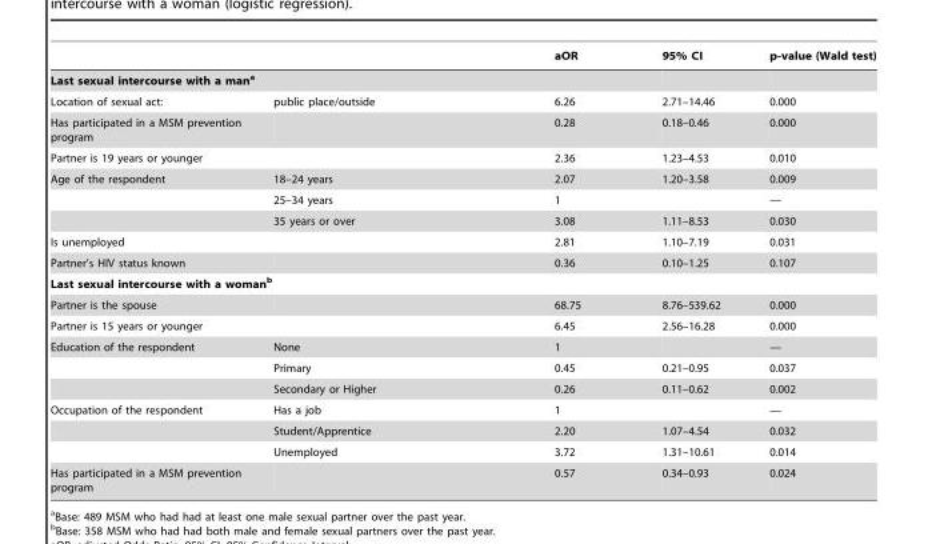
<table><thead><tr><td></td><td></td><td>aOR</td><td>95% CI</td><td>p-value (Wald test)</td></tr></thead><tbody><tr><td colspan="5">Last sexual intercourse with a mana</td></tr><tr><td>Location of sexual act:</td><td>public place/outside</td><td>6.26</td><td>2.71–14.46</td><td>0.000</td></tr><tr><td>Has participated in a MSM prevention program</td><td></td><td>0.28</td><td>0.18–0.46</td><td>0.000</td></tr><tr><td>Partner is 19 years or younger</td><td></td><td>2.36</td><td>1.23–4.53</td><td>0.010</td></tr><tr><td rowspan="3">Age of the respondent</td><td>18–24 years</td><td>2.07</td><td>1.20–3.58</td><td>0.009</td></tr><tr><td>25–34 years</td><td>1</td><td></td><td>—</td></tr><tr><td>35 years or over</td><td>3.08</td><td>1.11–8.53</td><td>0.030</td></tr><tr><td>Is unemployed</td><td></td><td>2.81</td><td>1.10–7.19</td><td>0.031</td></tr><tr><td>Partner’s HIV status known</td><td></td><td>0.36</td><td>0.10–1.25</td><td>0.107</td></tr><tr><td colspan="5">Last sexual intercourse with a womanb</td></tr><tr><td>Partner is the spouse</td><td></td><td>68.75</td><td>8.76–539.62</td><td>0.000</td></tr><tr><td>Partner is 15 years or younger</td><td></td><td>6.45</td><td>2.56–16.28</td><td>0.000</td></tr><tr><td rowspan="3">Education of the respondent</td><td>None</td><td>1</td><td></td><td>—</td></tr><tr><td>Primary</td><td>0.45</td><td>0.21–0.95</td><td>0.037</td></tr><tr><td>Secondary or Higher</td><td>0.26</td><td>0.11–0.62</td><td>0.002</td></tr><tr><td rowspan="3">Occupation of the respondent</td><td>Has a job</td><td>1</td><td></td><td>—</td></tr><tr><td>Student/Apprentice</td><td>2.20</td><td>1.07–4.54</td><td>0.032</td></tr><tr><td>Unemployed</td><td>3.72</td><td>1.31–10.61</td><td>0.014</td></tr><tr><td>Has participated in a MSM prevention program</td><td></td><td>0.57</td><td>0.34–0.93</td><td>0.024</td></tr></tbody></table>